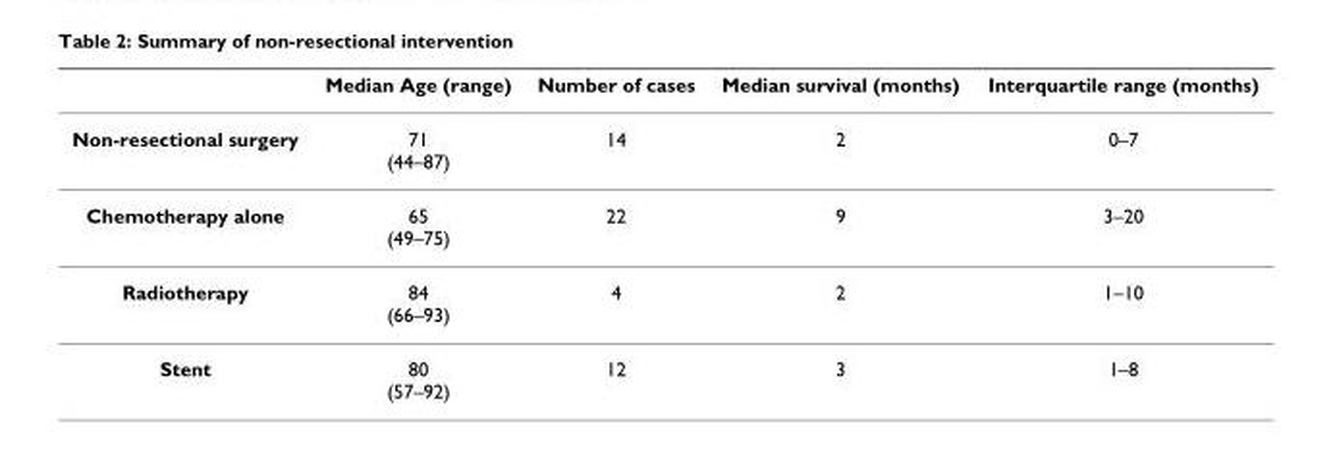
<table><thead><tr><td></td><td>Median Age (range)</td><td>Number of cases</td><td>Median survival (months)</td><td>Interquartile range (months)</td></tr></thead><tbody><tr><td>Non-resectional surgery</td><td>71 (44–87)</td><td>14</td><td>2</td><td>0–7</td></tr><tr><td>Chemotherapy alone</td><td>65 (49–75)</td><td>22</td><td>9</td><td>3–20</td></tr><tr><td>Radiotherapy</td><td>84 (66–93)</td><td>4</td><td>2</td><td>1–10</td></tr><tr><td>Stent</td><td>80 (57–92)</td><td>12</td><td>3</td><td>1–8</td></tr></tbody></table>